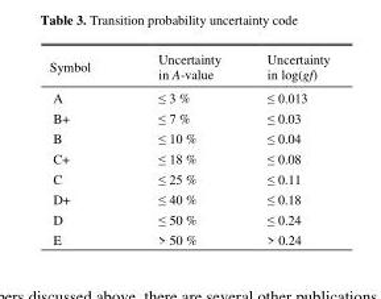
<table><thead><tr><td>Symbol</td><td>Uncertainty in A-value</td><td>Uncertainty in log(gf)</td></tr></thead><tbody><tr><td>A</td><td>≤ 3 %</td><td>≤ 0.013</td></tr><tr><td>B+</td><td>≤ 7 %</td><td>≤ 0.03</td></tr><tr><td>B</td><td>≤ 10 %</td><td>≤ 0.04</td></tr><tr><td>C+</td><td>≤ 18 %</td><td>≤ 0.08</td></tr><tr><td>C</td><td>≤ 25 %</td><td>≤ 0.11</td></tr><tr><td>D+</td><td>≤ 40 %</td><td>≤ 0.18</td></tr><tr><td>D</td><td>≤ 50 %</td><td>≤ 0.24</td></tr><tr><td>E</td><td>&gt; 50 %</td><td>&gt; 0.24</td></tr></tbody></table>